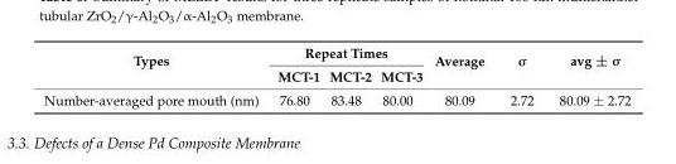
<table><thead><tr><td rowspan="2">Types</td><td colspan="3">Repeat Times</td><td rowspan="2">Average</td><td rowspan="2">σ</td><td rowspan="2">avg ± σ</td></tr><tr><td>MCT-1</td><td>MCT-2</td><td>MCT-3</td></tr></thead><tbody><tr><td>Number-averaged pore mouth (nm)</td><td>76.80</td><td>83.48</td><td>80.00</td><td>80.09</td><td>2.72</td><td>80.09 ± 2.72</td></tr></tbody></table>